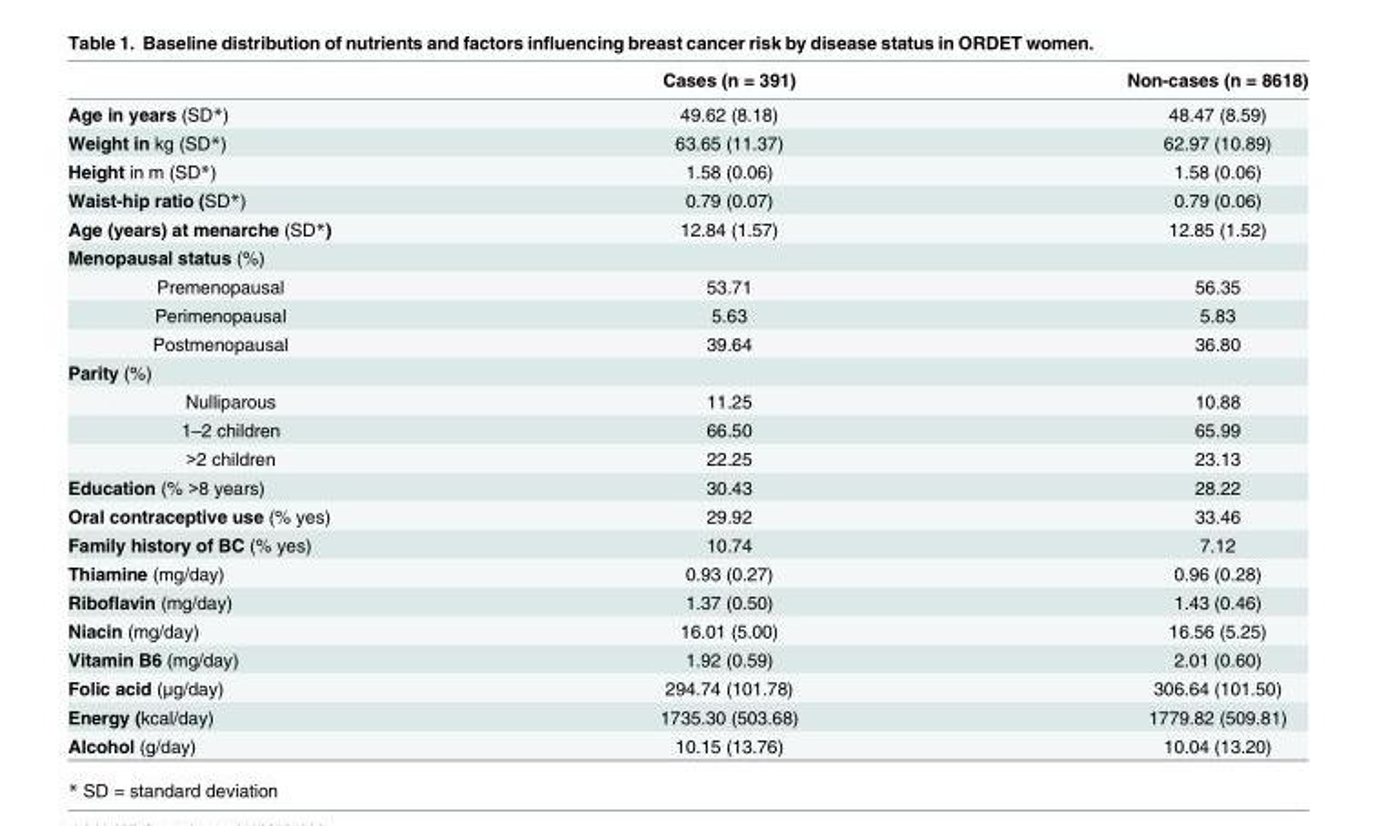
<table><thead><tr><td></td><td>Cases (n = 391)</td><td>Non-cases (n = 8618)</td></tr></thead><tbody><tr><td>Age in years (SD*)</td><td>49.62 (8.18)</td><td>48.47 (8.59)</td></tr><tr><td>Weight in kg (SD*)</td><td>63.65 (11.37)</td><td>62.97 (10.89)</td></tr><tr><td>Height in m (SD*)</td><td>1.58 (0.06)</td><td>1.58 (0.06)</td></tr><tr><td>Waist-hip ratio (SD*)</td><td>0.79 (0.07)</td><td>0.79 (0.06)</td></tr><tr><td>Age (years) at menarche (SD*)</td><td>12.84 (1.57)</td><td>12.85 (1.52)</td></tr><tr><td colspan="3">Menopausal status (%)</td></tr><tr><td>Premenopausal</td><td>53.71</td><td>56.35</td></tr><tr><td>Perimenopausal</td><td>5.63</td><td>5.83</td></tr><tr><td>Postmenopausal</td><td>39.64</td><td>36.80</td></tr><tr><td colspan="3">Parity (%)</td></tr><tr><td>Nulliparous</td><td>11.25</td><td>10.88</td></tr><tr><td>1–2 children</td><td>66.50</td><td>65.99</td></tr><tr><td>&gt;2 children</td><td>22.25</td><td>23.13</td></tr><tr><td>Education (% &gt;8 years)</td><td>30.43</td><td>28.22</td></tr><tr><td>Oral contraceptive use (% yes)</td><td>29.92</td><td>33.46</td></tr><tr><td>Family history of BC (% yes)</td><td>10.74</td><td>7.12</td></tr><tr><td>Thiamine (mg/day)</td><td>0.93 (0.27)</td><td>0.96 (0.28)</td></tr><tr><td>Riboflavin (mg/day)</td><td>1.37 (0.50)</td><td>1.43 (0.46)</td></tr><tr><td>Niacin (mg/day)</td><td>16.01 (5.00)</td><td>16.56 (5.25)</td></tr><tr><td>Vitamin B6 (mg/day)</td><td>1.92 (0.59)</td><td>2.01 (0.60)</td></tr><tr><td>Folic acid (μg/day)</td><td>294.74 (101.78)</td><td>306.64 (101.50)</td></tr><tr><td>Energy (kcal/day)</td><td>1735.30 (503.68)</td><td>1779.82 (509.81)</td></tr><tr><td>Alcohol (g/day)</td><td>10.15 (13.76)</td><td>10.04 (13.20)</td></tr></tbody></table>